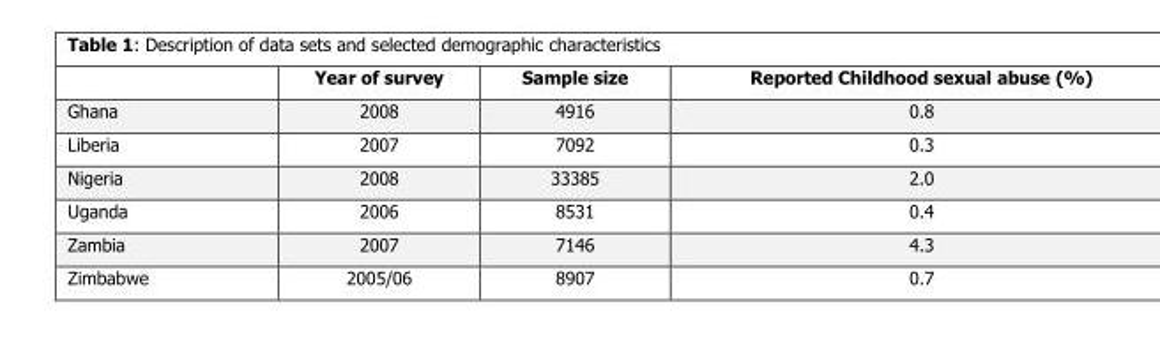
<table><thead><tr><td></td><td>Year of survey</td><td>Sample size</td><td>Reported Childhood sexual abuse (%)</td></tr></thead><tbody><tr><td>Ghana</td><td>2008</td><td>4916</td><td>0.8</td></tr><tr><td>Liberia</td><td>2007</td><td>7092</td><td>0.3</td></tr><tr><td>Nigeria</td><td>2008</td><td>33385</td><td>2.0</td></tr><tr><td>Uganda</td><td>2006</td><td>8531</td><td>0.4</td></tr><tr><td>Zambia</td><td>2007</td><td>7146</td><td>4.3</td></tr><tr><td>Zimbabwe</td><td>2005/06</td><td>8907</td><td>0.7</td></tr></tbody></table>